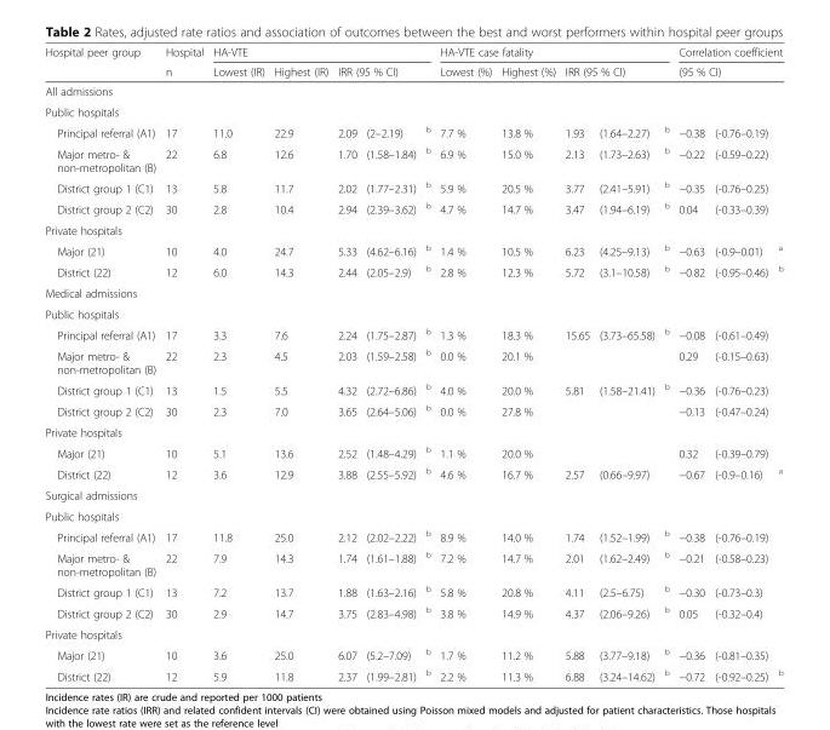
<table><thead><tr><td rowspan="2">Hospital peer group</td><td rowspan="2">Hospital n</td><td colspan="5">HA-VTE</td><td colspan="5">HA-VTE case fatality</td><td rowspan="2" colspan="3">Correlation coefficient (95 % CI)</td></tr><tr><td>Lowest (IR)</td><td>Highest (IR)</td><td colspan="3">IRR (95 % CI)</td><td>Lowest (%)</td><td>Highest (%)</td><td colspan="3">IRR (95 % CI)</td></tr><tr><td rowspan="2" colspan="15">All admissions Public hospitals</td></tr><tr></tr><tr><td>Principal referral (A1)</td><td>17</td><td>11.0</td><td>22.9</td><td>2.09</td><td>(2–2.19)</td><td><sup>b</sup></td><td>7.7 %</td><td>13.8 %</td><td>1.93</td><td>(1.64–2.27)</td><td><sup>b</sup></td><td>−0.38</td><td>(-0.76–0.19)</td><td></td></tr></thead><tbody><tr><td>Major metro- &amp; non-metropolitan (B)</td><td>22</td><td>6.8</td><td>12.6</td><td>1.70</td><td>(1.58–1.84)</td><td><sup>b</sup></td><td>6.9 %</td><td>15.0 %</td><td>2.13</td><td>(1.73–2.63)</td><td><sup>b</sup></td><td>−0.22</td><td>(-0.59–0.22)</td><td></td></tr><tr><td>District group 1 (C1)</td><td>13</td><td>5.8</td><td>11.7</td><td>2.02</td><td>(1.77–2.31)</td><td><sup>b</sup></td><td>5.9 %</td><td>20.5 %</td><td>3.77</td><td>(2.41–5.91)</td><td><sup>b</sup></td><td>−0.35</td><td>(-0.76–0.25)</td><td></td></tr><tr><td>District group 2 (C2)</td><td>30</td><td>2.8</td><td>10.4</td><td>2.94</td><td>(2.39–3.62)</td><td><sup>b</sup></td><td>4.7 %</td><td>14.7 %</td><td>3.47</td><td>(1.94–6.19)</td><td><sup>b</sup></td><td>0.04</td><td>(-0.33–0.39)</td><td></td></tr><tr><td colspan="15">Private hospitals</td></tr><tr><td>Major (21)</td><td>10</td><td>4.0</td><td>24.7</td><td>5.33</td><td>(4.62–6.16)</td><td><sup>b</sup></td><td>1.4 %</td><td>10.5 %</td><td>6.23</td><td>(4.25–9.13)</td><td><sup>b</sup></td><td>−0.63</td><td>(-0.9–0.01)</td><td><sup>a</sup></td></tr><tr><td>District (22)</td><td>12</td><td>6.0</td><td>14.3</td><td>2.44</td><td>(2.05–2.9)</td><td><sup>b</sup></td><td>2.8 %</td><td>12.3 %</td><td>5.72</td><td>(3.1–10.58)</td><td><sup>b</sup></td><td>−0.82</td><td>(-0.95–0.46)</td><td><sup>b</sup></td></tr><tr><td colspan="15">Medical admissions</td></tr><tr><td colspan="15">Public hospitals</td></tr><tr><td>Principal referral (A1)</td><td>17</td><td>3.3</td><td>7.6</td><td>2.24</td><td>(1.75–2.87)</td><td><sup>b</sup></td><td>1.3 %</td><td>18.3 %</td><td>15.65</td><td>(3.73–65.58)</td><td><sup>b</sup></td><td>−0.08</td><td>(-0.61–0.49)</td><td></td></tr><tr><td>Major metro- &amp; non-metropolitan (B)</td><td>22</td><td>2.3</td><td>4.5</td><td>2.03</td><td>(1.59–2.58)</td><td><sup>b</sup></td><td>0.0 %</td><td>20.1 %</td><td></td><td></td><td></td><td>0.29</td><td>(-0.15–0.63)</td><td></td></tr><tr><td>District group 1 (C1)</td><td>13</td><td>1.5</td><td>5.5</td><td>4.32</td><td>(2.72–6.86)</td><td><sup>b</sup></td><td>4.0 %</td><td>20.0 %</td><td>5.81</td><td>(1.58–21.41)</td><td><sup>b</sup></td><td>−0.36</td><td>(-0.76–0.23)</td><td></td></tr><tr><td>District group 2 (C2)</td><td>30</td><td>2.3</td><td>7.0</td><td>3.65</td><td>(2.64–5.06)</td><td><sup>b</sup></td><td>0.0 %</td><td>27.8 %</td><td></td><td></td><td></td><td>−0.13</td><td>(-0.47–0.24)</td><td></td></tr><tr><td colspan="15">Private hospitals</td></tr><tr><td>Major (21)</td><td>10</td><td>5.1</td><td>13.6</td><td>2.52</td><td>(1.48–4.29)</td><td><sup>b</sup></td><td>1.1 %</td><td>20.0 %</td><td></td><td></td><td></td><td>0.32</td><td>(-0.39–0.79)</td><td></td></tr><tr><td>District (22)</td><td>12</td><td>3.6</td><td>12.9</td><td>3.88</td><td>(2.55–5.92)</td><td><sup>b</sup></td><td>4.6 %</td><td>16.7 %</td><td>2.57</td><td>(0.66–9.97)</td><td></td><td>−0.67</td><td>(-0.9–0.16)</td><td><sup>a</sup></td></tr><tr><td colspan="15">Surgical admissions</td></tr><tr><td colspan="15">Public hospitals</td></tr><tr><td>Principal referral (A1)</td><td>17</td><td>11.8</td><td>25.0</td><td>2.12</td><td>(2.02–2.22)</td><td><sup>b</sup></td><td>8.9 %</td><td>14.0 %</td><td>1.74</td><td>(1.52–1.99)</td><td><sup>b</sup></td><td>−0.38</td><td>(-0.76–0.19)</td><td></td></tr><tr><td>Major metro- &amp; non-metropolitan (B)</td><td>22</td><td>7.9</td><td>14.3</td><td>1.74</td><td>(1.61–1.88)</td><td><sup>b</sup></td><td>7.2 %</td><td>14.7 %</td><td>2.01</td><td>(1.62–2.49)</td><td><sup>b</sup></td><td>−0.21</td><td>(-0.58–0.23)</td><td></td></tr><tr><td>District group 1 (C1)</td><td>13</td><td>7.2</td><td>13.7</td><td>1.88</td><td>(1.63–2.16)</td><td><sup>b</sup></td><td>5.8 %</td><td>20.8 %</td><td>4.11</td><td>(2.5–6.75)</td><td><sup>b</sup></td><td>−0.30</td><td>(-0.73–0.3)</td><td></td></tr><tr><td>District group 2 (C2)</td><td>30</td><td>2.9</td><td>14.7</td><td>3.75</td><td>(2.83–4.98)</td><td><sup>b</sup></td><td>3.8 %</td><td>14.9 %</td><td>4.37</td><td>(2.06–9.26)</td><td><sup>b</sup></td><td>0.05</td><td>(-0.32–0.4)</td><td></td></tr><tr><td colspan="15">Private hospitals</td></tr><tr><td>Major (21)</td><td>10</td><td>3.6</td><td>25.0</td><td>6.07</td><td>(5.2–7.09)</td><td><sup>b</sup></td><td>1.7 %</td><td>11.2 %</td><td>5.88</td><td>(3.77–9.18)</td><td><sup>b</sup></td><td>−0.36</td><td>(-0.81–0.35)</td><td></td></tr><tr><td>District (22)</td><td>12</td><td>5.9</td><td>11.8</td><td>2.37</td><td>(1.99–2.81)</td><td><sup>b</sup></td><td>2.2 %</td><td>11.3 %</td><td>6.88</td><td>(3.24–14.62)</td><td><sup>b</sup></td><td>−0.72</td><td>(-0.92–0.25)</td><td><sup>b</sup></td></tr></tbody></table>